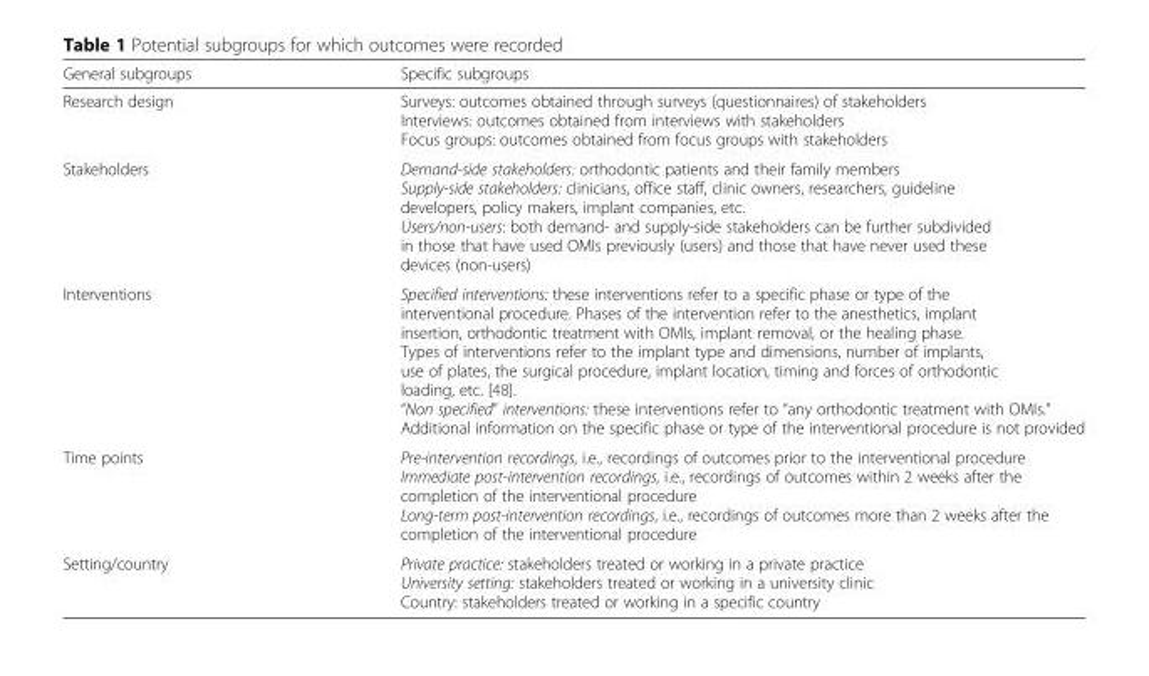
<table><thead><tr><td>General subgroups</td><td>Specific subgroups</td></tr></thead><tbody><tr><td>Research design</td><td>Surveys: outcomes obtained through surveys (questionnaires) of stakeholders Interviews: outcomes obtained from interviews with stakeholders Focus groups: outcomes obtained from focus groups with stakeholders</td></tr><tr><td>Stakeholders</td><td>Demand-side stakeholders: orthodontic patients and their family members Supply-side stakeholders: clinicians, office staff, clinic owners, researchers, guideline developers, policy makers, implant companies, etc. Users/non-users: both demand- and supply-side stakeholders can be further subdivided in those that have used OMIs previously (users) and those that have never used these devices (non-users)</td></tr><tr><td>Interventions</td><td>Specified interventions: these interventions refer to a specific phase or type of the interventional procedure. Phases of the intervention refer to the anesthetics, implant insertion, orthodontic treatment with OMIs, implant removal, or the healing phase. Types of interventions refer to the implant type and dimensions, number of implants, use of plates, the surgical procedure, implant location, timing and forces of orthodontic loading, etc. [48]. “Non specified” interventions: these interventions refer to “any orthodontic treatment with OMIs.” Additional information on the specific phase or type of the interventional procedure is not provided</td></tr><tr><td>Time points</td><td>Pre-intervention recordings, i.e., recordings of outcomes prior to the interventional procedure Immediate post-intervention recordings, i.e., recordings of outcomes within 2 weeks after the completion of the interventional procedure Long-term post-intervention recordings, i.e., recordings of outcomes more than 2 weeks after the completion of the interventional procedure</td></tr><tr><td>Setting/country</td><td>Private practice: stakeholders treated or working in a private practice University setting: stakeholders treated or working in a university clinic Country: stakeholders treated or working in a specific country</td></tr></tbody></table>